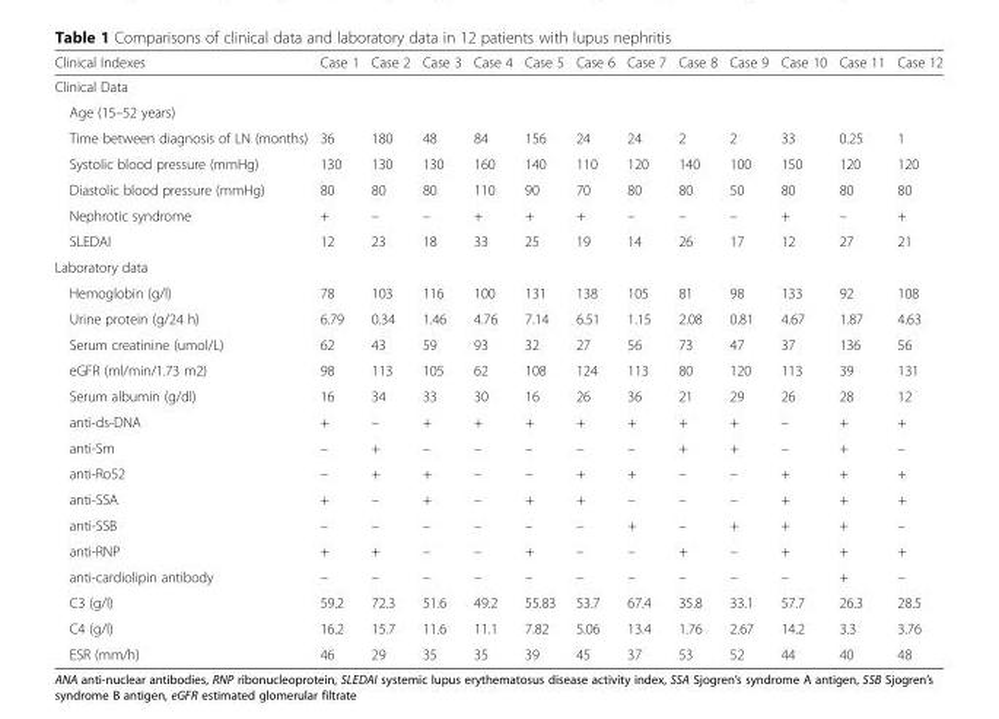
<table><thead><tr><td>Clinical Indexes</td><td>Case 1</td><td>Case 2</td><td>Case 3</td><td>Case 4</td><td>Case 5</td><td>Case 6</td><td>Case 7</td><td>Case 8</td><td>Case 9</td><td>Case 10</td><td>Case 11</td><td>Case 12</td></tr></thead><tbody><tr><td colspan="13">Clinical Data</td></tr><tr><td colspan="13">Age (15–52 years)</td></tr><tr><td>Time between diagnosis of LN (months)</td><td>36</td><td>180</td><td>48</td><td>84</td><td>156</td><td>24</td><td>24</td><td>2</td><td>2</td><td>33</td><td>0.25</td><td>1</td></tr><tr><td>Systolic blood pressure (mmHg)</td><td>130</td><td>130</td><td>130</td><td>160</td><td>140</td><td>110</td><td>120</td><td>140</td><td>100</td><td>150</td><td>120</td><td>120</td></tr><tr><td>Diastolic blood pressure (mmHg)</td><td>80</td><td>80</td><td>80</td><td>110</td><td>90</td><td>70</td><td>80</td><td>80</td><td>50</td><td>80</td><td>80</td><td>80</td></tr><tr><td>Nephrotic syndrome</td><td>+</td><td>–</td><td>–</td><td>+</td><td>+</td><td>+</td><td>–</td><td>–</td><td>–</td><td>+</td><td>–</td><td>+</td></tr><tr><td>SLEDAI</td><td>12</td><td>23</td><td>18</td><td>33</td><td>25</td><td>19</td><td>14</td><td>26</td><td>17</td><td>12</td><td>27</td><td>21</td></tr><tr><td colspan="13">Laboratory data</td></tr><tr><td>Hemoglobin (g/l)</td><td>78</td><td>103</td><td>116</td><td>100</td><td>131</td><td>138</td><td>105</td><td>81</td><td>98</td><td>133</td><td>92</td><td>108</td></tr><tr><td>Urine protein (g/24 h)</td><td>6.79</td><td>0.34</td><td>1.46</td><td>4.76</td><td>7.14</td><td>6.51</td><td>1.15</td><td>2.08</td><td>0.81</td><td>4.67</td><td>1.87</td><td>4.63</td></tr><tr><td>Serum creatinine (umol/L)</td><td>62</td><td>43</td><td>59</td><td>93</td><td>32</td><td>27</td><td>56</td><td>73</td><td>47</td><td>37</td><td>136</td><td>56</td></tr><tr><td>eGFR (ml/min/1.73 m2)</td><td>98</td><td>113</td><td>105</td><td>62</td><td>108</td><td>124</td><td>113</td><td>80</td><td>120</td><td>113</td><td>39</td><td>131</td></tr><tr><td>Serum albumin (g/dl)</td><td>16</td><td>34</td><td>33</td><td>30</td><td>16</td><td>26</td><td>36</td><td>21</td><td>29</td><td>26</td><td>28</td><td>12</td></tr><tr><td>anti-ds-DNA</td><td>+</td><td>–</td><td>+</td><td>+</td><td>+</td><td>+</td><td>+</td><td>+</td><td>+</td><td>–</td><td>+</td><td>+</td></tr><tr><td>anti-Sm</td><td>–</td><td>+</td><td>–</td><td>–</td><td>–</td><td>–</td><td>–</td><td>+</td><td>+</td><td>–</td><td>+</td><td>–</td></tr><tr><td>anti-Ro52</td><td>–</td><td>+</td><td>+</td><td>–</td><td>–</td><td>+</td><td>+</td><td>–</td><td>–</td><td>+</td><td>+</td><td>+</td></tr><tr><td>anti-SSA</td><td>+</td><td>–</td><td>+</td><td>–</td><td>+</td><td>+</td><td>–</td><td>–</td><td>–</td><td>+</td><td>+</td><td>+</td></tr><tr><td>anti-SSB</td><td>–</td><td>–</td><td>–</td><td>–</td><td>–</td><td>–</td><td>+</td><td>–</td><td>+</td><td>+</td><td>+</td><td>–</td></tr><tr><td>anti-RNP</td><td>+</td><td>+</td><td>–</td><td>–</td><td>+</td><td>–</td><td>–</td><td>+</td><td>–</td><td>+</td><td>+</td><td>+</td></tr><tr><td>anti-cardiolipin antibody</td><td>–</td><td>–</td><td>–</td><td>–</td><td>–</td><td>–</td><td>–</td><td>–</td><td>–</td><td>–</td><td>+</td><td>–</td></tr><tr><td>C3 (g/l)</td><td>59.2</td><td>72.3</td><td>51.6</td><td>49.2</td><td>55.83</td><td>53.7</td><td>67.4</td><td>35.8</td><td>33.1</td><td>57.7</td><td>26.3</td><td>28.5</td></tr><tr><td>C4 (g/l)</td><td>16.2</td><td>15.7</td><td>11.6</td><td>11.1</td><td>7.82</td><td>5.06</td><td>13.4</td><td>1.76</td><td>2.67</td><td>14.2</td><td>3.3</td><td>3.76</td></tr><tr><td>ESR (mm/h)</td><td>46</td><td>29</td><td>35</td><td>35</td><td>39</td><td>45</td><td>37</td><td>53</td><td>52</td><td>44</td><td>40</td><td>48</td></tr></tbody></table>